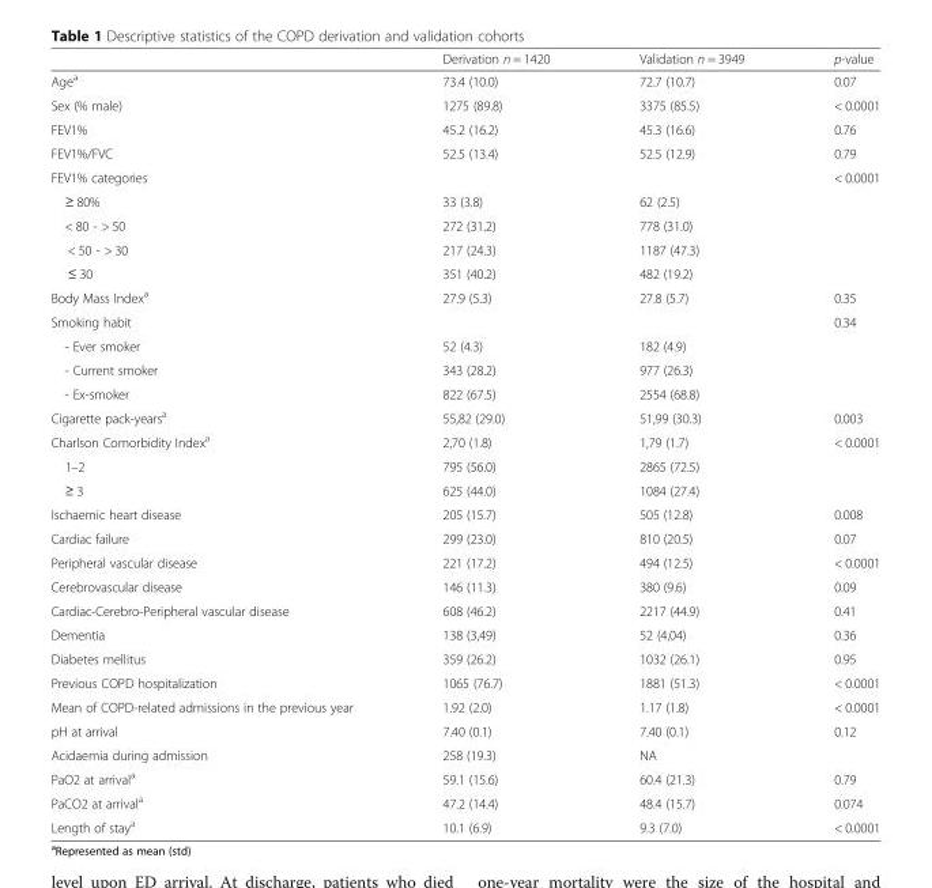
<table><thead><tr><td></td><td>Derivation n = 1420</td><td>Validation n = 3949</td><td>p-value</td></tr></thead><tbody><tr><td>Age<sup>a</sup></td><td>73.4 (10.0)</td><td>72.7 (10.7)</td><td>0.07</td></tr><tr><td>Sex (% male)</td><td>1275 (89.8)</td><td>3375 (85.5)</td><td>&lt; 0.0001</td></tr><tr><td>FEV1%</td><td>45.2 (16.2)</td><td>45.3 (16.6)</td><td>0.76</td></tr><tr><td>FEV1%/FVC</td><td>52.5 (13.4)</td><td>52.5 (12.9)</td><td>0.79</td></tr><tr><td colspan="3">FEV1% categories</td><td>&lt; 0.0001</td></tr><tr><td>≥ 80%</td><td>33 (3.8)</td><td>62 (2.5)</td><td></td></tr><tr><td>&lt; 80 - &gt; 50</td><td>272 (31.2)</td><td>778 (31.0)</td><td></td></tr><tr><td>&lt; 50 - &gt; 30</td><td>217 (24.3)</td><td>1187 (47.3)</td><td></td></tr><tr><td>≤ 30</td><td>351 (40.2)</td><td>482 (19.2)</td><td></td></tr><tr><td>Body Mass Index<sup>a</sup></td><td>27.9 (5.3)</td><td>27.8 (5.7)</td><td>0.35</td></tr><tr><td colspan="3">Smoking habit</td><td>0.34</td></tr><tr><td>- Ever smoker</td><td>52 (4.3)</td><td>182 (4.9)</td><td></td></tr><tr><td>- Current smoker</td><td>343 (28.2)</td><td>977 (26.3)</td><td></td></tr><tr><td>- Ex-smoker</td><td>822 (67.5)</td><td>2554 (68.8)</td><td></td></tr><tr><td>Cigarette pack-years<sup>a</sup></td><td>55,82 (29.0)</td><td>51,99 (30.3)</td><td>0.003</td></tr><tr><td>Charlson Comorbidity Index<sup>a</sup></td><td>2,70 (1.8)</td><td>1,79 (1.7)</td><td>&lt; 0.0001</td></tr><tr><td>1–2</td><td>795 (56.0)</td><td>2865 (72.5)</td><td></td></tr><tr><td>≥ 3</td><td>625 (44.0)</td><td>1084 (27.4)</td><td></td></tr><tr><td>Ischaemic heart disease</td><td>205 (15.7)</td><td>505 (12.8)</td><td>0.008</td></tr><tr><td>Cardiac failure</td><td>299 (23.0)</td><td>810 (20.5)</td><td>0.07</td></tr><tr><td>Peripheral vascular disease</td><td>221 (17.2)</td><td>494 (12.5)</td><td>&lt; 0.0001</td></tr><tr><td>Cerebrovascular disease</td><td>146 (11.3)</td><td>380 (9.6)</td><td>0.09</td></tr><tr><td>Cardiac-Cerebro-Peripheral vascular disease</td><td>608 (46.2)</td><td>2217 (44.9)</td><td>0.41</td></tr><tr><td>Dementia</td><td>138 (3,49)</td><td>52 (4,04)</td><td>0.36</td></tr><tr><td>Diabetes mellitus</td><td>359 (26.2)</td><td>1032 (26.1)</td><td>0.95</td></tr><tr><td>Previous COPD hospitalization</td><td>1065 (76.7)</td><td>1881 (51.3)</td><td>&lt; 0.0001</td></tr><tr><td>Mean of COPD-related admissions in the previous year</td><td>1.92 (2.0)</td><td>1.17 (1.8)</td><td>&lt; 0.0001</td></tr><tr><td>pH at arrival</td><td>7.40 (0.1)</td><td>7.40 (0.1)</td><td>0.12</td></tr><tr><td>Acidaemia during admission</td><td>258 (19.3)</td><td>NA</td><td></td></tr><tr><td>PaO2 at arrival<sup>a</sup></td><td>59.1 (15.6)</td><td>60.4 (21.3)</td><td>0.79</td></tr><tr><td>PaCO2 at arrival<sup>a</sup></td><td>47.2 (14.4)</td><td>48.4 (15.7)</td><td>0.074</td></tr><tr><td>Length of stay<sup>a</sup></td><td>10.1 (6.9)</td><td>9.3 (7.0)</td><td>&lt; 0.0001</td></tr></tbody></table>